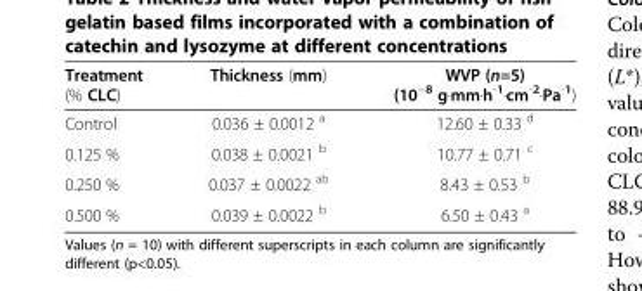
<table><thead><tr><td>Treatment (% CLC)</td><td>Thickness (mm)</td><td>WVP (n=5) (10−8 g·mm·h-1·cm-2·Pa-1)</td></tr></thead><tbody><tr><td>Control</td><td>0.036 ± 0.0012 <sup>a</sup></td><td>12.60 ± 0.33 <sup>d</sup></td></tr><tr><td>0.125 %</td><td>0.038 ± 0.0021 <sup>b</sup></td><td>10.77 ± 0.71 <sup>c</sup></td></tr><tr><td>0.250 %</td><td>0.037 ± 0.0022 <sup>ab</sup></td><td>8.43 ± 0.53 <sup>b</sup></td></tr><tr><td>0.500 %</td><td>0.039 ± 0.0022 <sup>b</sup></td><td>6.50 ± 0.43 <sup>a</sup></td></tr></tbody></table>